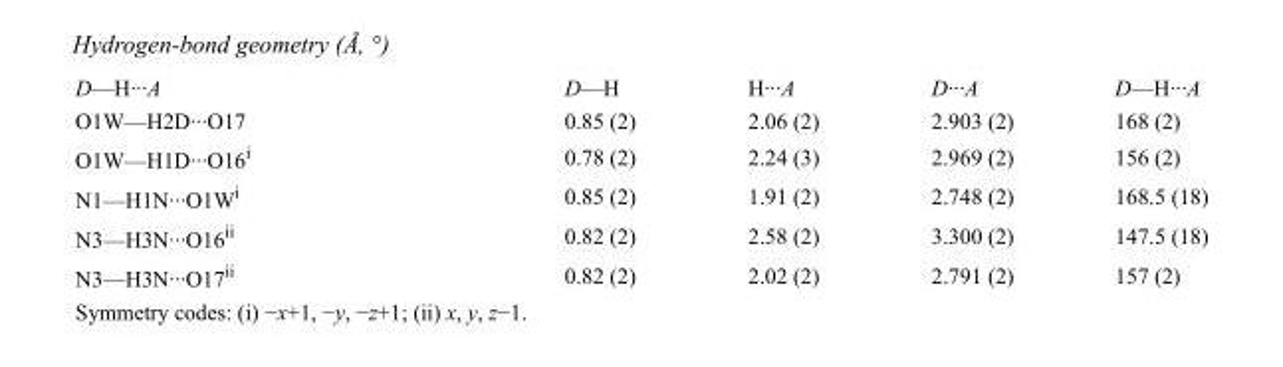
<table><tbody><tr><td>D—H···A</td><td>D—H</td><td>H···A</td><td>D···A</td><td>D—H···A</td></tr><tr><td>O1W—H2D···O17</td><td>0.85 (2)</td><td>2.06 (2)</td><td>2.903 (2)</td><td>168 (2)</td></tr><tr><td>O1W—H1D···O16<sup>i</sup></td><td>0.78 (2)</td><td>2.24 (3)</td><td>2.969 (2)</td><td>156 (2)</td></tr><tr><td>N1—H1N···O1W<sup>i</sup></td><td>0.85 (2)</td><td>1.91 (2)</td><td>2.748 (2)</td><td>168.5 (18)</td></tr><tr><td>N3—H3N···O16<sup>ii</sup></td><td>0.82 (2)</td><td>2.58 (2)</td><td>3.300 (2)</td><td>147.5 (18)</td></tr><tr><td>N3—H3N···O17<sup>ii</sup></td><td>0.82 (2)</td><td>2.02 (2)</td><td>2.791 (2)</td><td>157 (2)</td></tr></tbody></table>